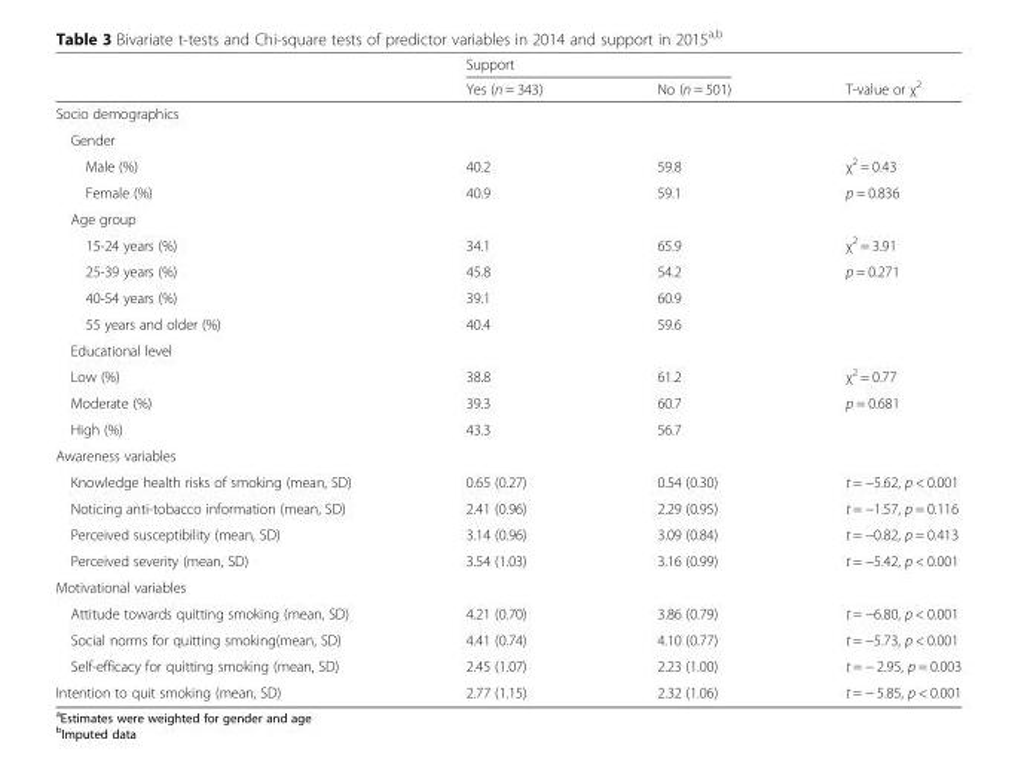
<table><thead><tr><td rowspan="2"></td><td colspan="2">Support</td><td rowspan="2">T-value or χ<sup>2</sup></td></tr><tr><td>Yes (n = 343)</td><td>No (n = 501)</td></tr></thead><tbody><tr><td colspan="4">Socio demographics</td></tr><tr><td colspan="4">Gender</td></tr><tr><td>Male (%)</td><td>40.2</td><td>59.8</td><td>χ<sup>2</sup> = 0.43</td></tr><tr><td>Female (%)</td><td>40.9</td><td>59.1</td><td>p = 0.836</td></tr><tr><td colspan="4">Age group</td></tr><tr><td>15-24 years (%)</td><td>34.1</td><td>65.9</td><td>χ<sup>2</sup> = 3.91</td></tr><tr><td>25-39 years (%)</td><td>45.8</td><td>54.2</td><td>p = 0.271</td></tr><tr><td>40-54 years (%)</td><td>39.1</td><td>60.9</td><td></td></tr><tr><td>55 years and older (%)</td><td>40.4</td><td>59.6</td><td></td></tr><tr><td colspan="4">Educational level</td></tr><tr><td>Low (%)</td><td>38.8</td><td>61.2</td><td>χ<sup>2</sup> = 0.77</td></tr><tr><td>Moderate (%)</td><td>39.3</td><td>60.7</td><td>p = 0.681</td></tr><tr><td>High (%)</td><td>43.3</td><td>56.7</td><td></td></tr><tr><td colspan="4">Awareness variables</td></tr><tr><td>Knowledge health risks of smoking (mean, SD)</td><td>0.65 (0.27)</td><td>0.54 (0.30)</td><td>t = −5.62, p &lt; 0.001</td></tr><tr><td>Noticing anti-tobacco information (mean, SD)</td><td>2.41 (0.96)</td><td>2.29 (0.95)</td><td>t = −1.57, p = 0.116</td></tr><tr><td>Perceived susceptibility (mean, SD)</td><td>3.14 (0.96)</td><td>3.09 (0.84)</td><td>t = −0.82, p = 0.413</td></tr><tr><td>Perceived severity (mean, SD)</td><td>3.54 (1.03)</td><td>3.16 (0.99)</td><td>t = −5.42, p &lt; 0.001</td></tr><tr><td colspan="4">Motivational variables</td></tr><tr><td>Attitude towards quitting smoking (mean, SD)</td><td>4.21 (0.70)</td><td>3.86 (0.79)</td><td>t = −6.80, p &lt; 0.001</td></tr><tr><td>Social norms for quitting smoking(mean, SD)</td><td>4.41 (0.74)</td><td>4.10 (0.77)</td><td>t = −5.73, p &lt; 0.001</td></tr><tr><td>Self-efficacy for quitting smoking (mean, SD)</td><td>2.45 (1.07)</td><td>2.23 (1.00)</td><td>t = − 2.95, p = 0.003</td></tr><tr><td>Intention to quit smoking (mean, SD)</td><td>2.77 (1.15)</td><td>2.32 (1.06)</td><td>t = − 5.85, p &lt; 0.001</td></tr></tbody></table>